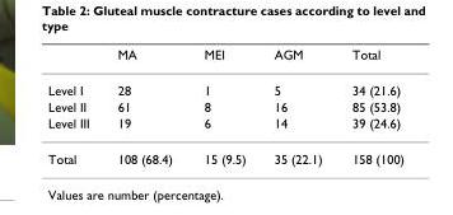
<table><thead><tr><td></td><td>MA</td><td>MEI</td><td>AGM</td><td>Total</td></tr></thead><tbody><tr><td>Level I</td><td>28</td><td>1</td><td>5</td><td>34 (21.6)</td></tr><tr><td>Level II</td><td>61</td><td>8</td><td>16</td><td>85 (53.8)</td></tr><tr><td>Level III</td><td>19</td><td>6</td><td>14</td><td>39 (24.6)</td></tr><tr><td>Total</td><td>108 (68.4)</td><td>15 (9.5)</td><td>35 (22.1)</td><td>158 (100)</td></tr></tbody></table>